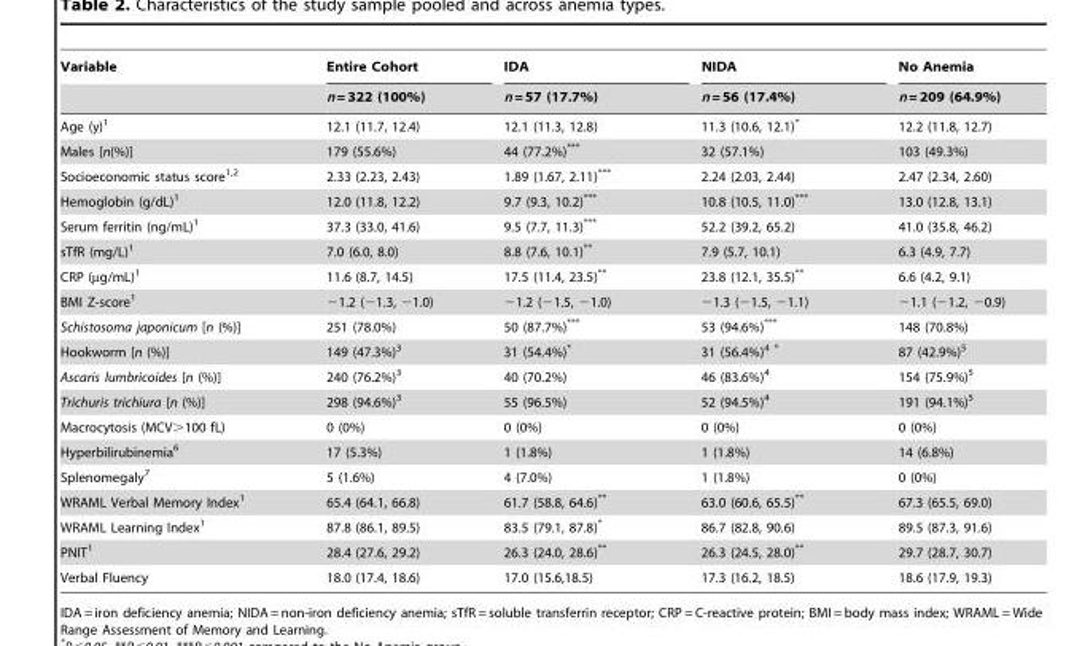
<table><thead><tr><td rowspan="2">Variable</td><td rowspan="2">Entire Cohort n = 322 (100%)</td><td rowspan="2">IDA n = 57 (17.7%)</td><td rowspan="2">NIDA n = 56 (17.4%)</td><td rowspan="2">No Anemia n = 209 (64.9%)</td></tr><tr></tr></thead><tbody><tr><td>Age (y)<sup>1</sup></td><td>12.1 (11.7, 12.4)</td><td>12.1 (11.3, 12.8)</td><td>11.3 (10.6, 12.1)*</td><td>12.2 (11.8, 12.7)</td></tr><tr><td>Males [n(%)]</td><td>179 (55.6%)</td><td>44 (77.2%)***</td><td>32 (57.1%)</td><td>103 (49.3%)</td></tr><tr><td>Socioeconomic status score<sup>1,</sup>2</td><td>2.33 (2.23, 2.43)</td><td>1.89 (1.67, 2.11)***</td><td>2.24 (2.03, 2.44)</td><td>2.47 (2.34, 2.60)</td></tr><tr><td>Hemoglobin (g/dL)<sup>1</sup></td><td>12.0 (11.8, 12.2)</td><td>9.7 (9.3, 10.2)***</td><td>10.8 (10.5, 11.0)***</td><td>13.0 (12.8, 13.1)</td></tr><tr><td>Serum ferritin (ng/mL)<sup>1</sup></td><td>37.3 (33.0, 41.6)</td><td>9.5 (7.7, 11.3)***</td><td>52.2 (39.2, 65.2)</td><td>41.0 (35.8, 46.2)</td></tr><tr><td>sTfR (mg/L)<sup>1</sup></td><td>7.0 (6.0, 8.0)</td><td>8.8 (7.6, 10.1)**</td><td>7.9 (5.7, 10.1)</td><td>6.3 (4.9, 7.7)</td></tr><tr><td>CRP (µg/mL)<sup>1</sup></td><td>11.6 (8.7, 14.5)</td><td>17.5 (11.4, 23.5)**</td><td>23.8 (12.1, 35.5)**</td><td>6.6 (4.2, 9.1)</td></tr><tr><td>BMI Z-score<sup>1</sup></td><td>−1.2 (−1.3, −1.0)</td><td>−1.2 (−1.5, −1.0)</td><td>−1.3 (−1.5, −1.1)</td><td>−1.1 (−1.2, −0.9)</td></tr><tr><td>Schistosoma japonicum [n (%)]</td><td>251 (78.0%)</td><td>50 (87.7%)***</td><td>53 (94.6%)***</td><td>148 (70.8%)</td></tr><tr><td>Hookworm [n (%)]</td><td>149 (47.3%)<sup>3</sup></td><td>31 (54.4%)*</td><td>31 (56.4%)<sup>4 *</sup></td><td>87 (42.9%)<sup>5</sup></td></tr><tr><td>Ascaris lumbricoides [n (%)]</td><td>240 (76.2%)<sup>3</sup></td><td>40 (70.2%)</td><td>46 (83.6%)<sup>4</sup></td><td>154 (75.9%)<sup>5</sup></td></tr><tr><td>Trichuris trichiura [n (%)]</td><td>298 (94.6%)<sup>3</sup></td><td>55 (96.5%)</td><td>52 (94.5%)<sup>4</sup></td><td>191 (94.1%)<sup>5</sup></td></tr><tr><td>Macrocytosis (MCV&gt;100 fL)</td><td>0 (0%)</td><td>0 (0%)</td><td>0 (0%)</td><td>0 (0%)</td></tr><tr><td>Hyperbilirubinemia<sup>6</sup></td><td>17 (5.3%)</td><td>1 (1.8%)</td><td>1 (1.8%)</td><td>14 (6.8%)</td></tr><tr><td>Splenomegaly<sup>7</sup></td><td>5 (1.6%)</td><td>4 (7.0%)</td><td>1 (1.8%)</td><td>0 (0%)</td></tr><tr><td>WRAML Verbal Memory Index<sup>1</sup></td><td>65.4 (64.1, 66.8)</td><td>61.7 (58.8, 64.6)**</td><td>63.0 (60.6, 65.5)**</td><td>67.3 (65.5, 69.0)</td></tr><tr><td>WRAML Learning Index<sup>1</sup></td><td>87.8 (86.1, 89.5)</td><td>83.5 (79.1, 87.8)*</td><td>86.7 (82.8, 90.6)</td><td>89.5 (87.3, 91.6)</td></tr><tr><td>PNIT<sup>1</sup></td><td>28.4 (27.6, 29.2)</td><td>26.3 (24.0, 28.6)**</td><td>26.3 (24.5, 28.0)**</td><td>29.7 (28.7, 30.7)</td></tr><tr><td>Verbal Fluency</td><td>18.0 (17.4, 18.6)</td><td>17.0 (15.6,18.5)</td><td>17.3 (16.2, 18.5)</td><td>18.6 (17.9, 19.3)</td></tr></tbody></table>